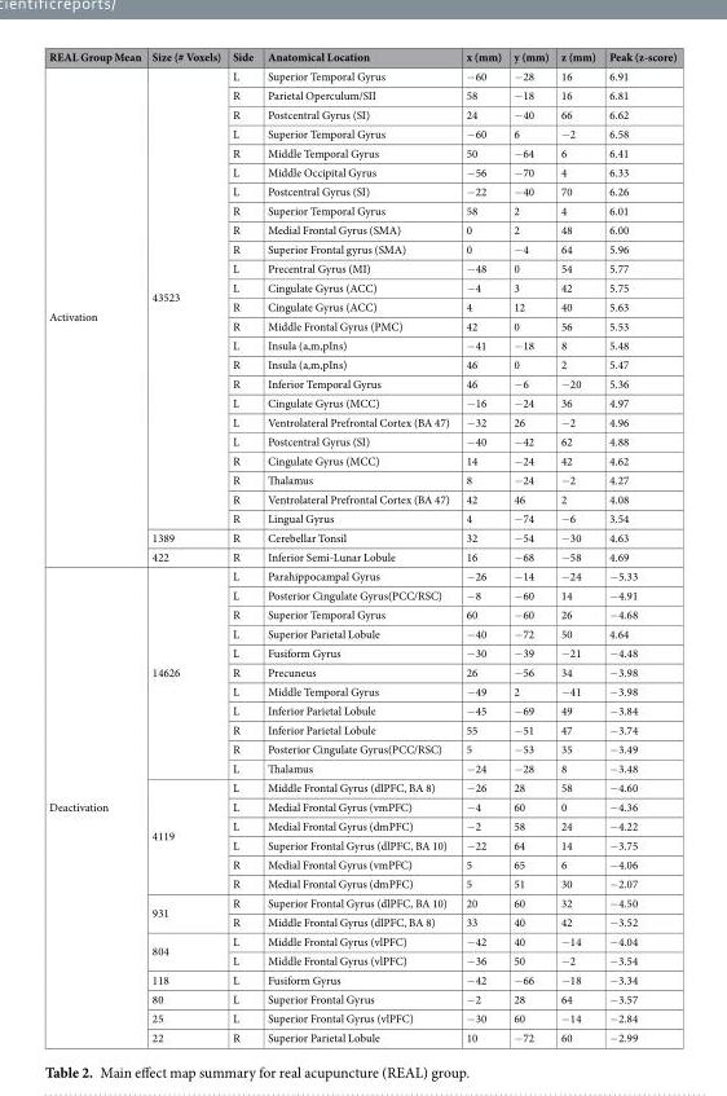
<table><thead><tr><td>REAL Group Mean</td><td>Size (# Voxels)</td><td>Side</td><td>Anatomical Location</td><td>x (mm)</td><td>y (mm)</td><td>z (mm)</td><td>Peak (z-score)</td></tr></thead><tbody><tr><td rowspan="26">Activation</td><td rowspan="24">43523</td><td>L</td><td>Superior Temporal Gyrus</td><td>−60</td><td>−28</td><td>16</td><td>6.91</td></tr><tr><td>R</td><td>Parietal Operculum/SII</td><td>58</td><td>−18</td><td>16</td><td>6.81</td></tr><tr><td>R</td><td>Postcentral Gyrus (SI)</td><td>24</td><td>−40</td><td>66</td><td>6.62</td></tr><tr><td>L</td><td>Superior Temporal Gyrus</td><td>−60</td><td>6</td><td>−2</td><td>6.58</td></tr><tr><td>R</td><td>Middle Temporal Gyrus</td><td>50</td><td>−64</td><td>6</td><td>6.41</td></tr><tr><td>L</td><td>Middle Occipital Gyrus</td><td>−56</td><td>−70</td><td>4</td><td>6.33</td></tr><tr><td>L</td><td>Postcentral Gyrus (SI)</td><td>−22</td><td>−40</td><td>70</td><td>6.26</td></tr><tr><td>R</td><td>Superior Temporal Gyrus</td><td>58</td><td>2</td><td>4</td><td>6.01</td></tr><tr><td>R</td><td>Medial Frontal Gyrus (SMA)</td><td>0</td><td>2</td><td>48</td><td>6.00</td></tr><tr><td>R</td><td>Superior Frontal gyrus (SMA)</td><td>0</td><td>−4</td><td>64</td><td>5.96</td></tr><tr><td>L</td><td>Precentral Gyrus (MI)</td><td>−48</td><td>0</td><td>54</td><td>5.77</td></tr><tr><td>L</td><td>Cingulate Gyrus (ACC)</td><td>−4</td><td>3</td><td>42</td><td>5.75</td></tr><tr><td>R</td><td>Cingulate Gyrus (ACC)</td><td>4</td><td>12</td><td>40</td><td>5.63</td></tr><tr><td>R</td><td>Middle Frontal Gyrus (PMC)</td><td>42</td><td>0</td><td>56</td><td>5.53</td></tr><tr><td>L</td><td>Insula (a,m,pIns)</td><td>−41</td><td>−18</td><td>8</td><td>5.48</td></tr><tr><td>R</td><td>Insula (a,m,pIns)</td><td>46</td><td>0</td><td>2</td><td>5.47</td></tr><tr><td>R</td><td>Inferior Temporal Gyrus</td><td>46</td><td>−6</td><td>−20</td><td>5.36</td></tr><tr><td>L</td><td>Cingulate Gyrus (MCC)</td><td>−16</td><td>−24</td><td>36</td><td>4.97</td></tr><tr><td>L</td><td>Ventrolateral Prefrontal Cortex (BA 47)</td><td>−32</td><td>26</td><td>−2</td><td>4.96</td></tr><tr><td>L</td><td>Postcentral Gyrus (SI)</td><td>−40</td><td>−42</td><td>62</td><td>4.88</td></tr><tr><td>R</td><td>Cingulate Gyrus (MCC)</td><td>14</td><td>−24</td><td>42</td><td>4.62</td></tr><tr><td>R</td><td>Thalamus</td><td>8</td><td>−24</td><td>−2</td><td>4.27</td></tr><tr><td>R</td><td>Ventrolateral Prefrontal Cortex (BA 47)</td><td>42</td><td>46</td><td>2</td><td>4.08</td></tr><tr><td>R</td><td>Lingual Gyrus</td><td>4</td><td>−74</td><td>−6</td><td>3.54</td></tr><tr><td>1389</td><td>R</td><td>Cerebellar Tonsil</td><td>32</td><td>−54</td><td>−30</td><td>4.63</td></tr><tr><td>422</td><td>R</td><td>Inferior Semi-Lunar Lobule</td><td>16</td><td>−68</td><td>−58</td><td>4.69</td></tr><tr><td rowspan="25">Deactivation</td><td rowspan="11">14626</td><td>L</td><td>Parahippocampal Gyrus</td><td>−26</td><td>−14</td><td>−24</td><td>−5.33</td></tr><tr><td>L</td><td>Posterior Cingulate Gyrus(PCC/RSC)</td><td>−8</td><td>−60</td><td>14</td><td>−4.91</td></tr><tr><td>R</td><td>Superior Temporal Gyrus</td><td>60</td><td>−60</td><td>26</td><td>−4.68</td></tr><tr><td>L</td><td>Superior Parietal Lobule</td><td>−40</td><td>−72</td><td>50</td><td>4.64</td></tr><tr><td>L</td><td>Fusiform Gyrus</td><td>−30</td><td>−39</td><td>−21</td><td>−4.48</td></tr><tr><td>R</td><td>Precuneus</td><td>26</td><td>−56</td><td>34</td><td>−3.98</td></tr><tr><td>L</td><td>Middle Temporal Gyrus</td><td>−49</td><td>2</td><td>−41</td><td>−3.98</td></tr><tr><td>L</td><td>Inferior Parietal Lobule</td><td>−45</td><td>−69</td><td>49</td><td>−3.84</td></tr><tr><td>R</td><td>Inferior Parietal Lobule</td><td>55</td><td>−51</td><td>47</td><td>−3.74</td></tr><tr><td>R</td><td>Posterior Cingulate Gyrus(PCC/RSC)</td><td>5</td><td>−53</td><td>35</td><td>−3.49</td></tr><tr><td>L</td><td>Thalamus</td><td>−24</td><td>−28</td><td>8</td><td>−3.48</td></tr><tr><td rowspan="6">4119</td><td>L</td><td>Middle Frontal Gyrus (dlPFC, BA 8)</td><td>−26</td><td>28</td><td>58</td><td>−4.60</td></tr><tr><td>L</td><td>Medial Frontal Gyrus (vmPFC)</td><td>−4</td><td>60</td><td>0</td><td>−4.36</td></tr><tr><td>L</td><td>Medial Frontal Gyrus (dmPFC)</td><td>−2</td><td>58</td><td>24</td><td>−4.22</td></tr><tr><td>L</td><td>Superior Frontal Gyrus (dlPFC, BA 10)</td><td>−22</td><td>64</td><td>14</td><td>−3.75</td></tr><tr><td>R</td><td>Medial Frontal Gyrus (vmPFC)</td><td>5</td><td>65</td><td>6</td><td>−4.06</td></tr><tr><td>R</td><td>Medial Frontal Gyrus (dmPFC)</td><td>5</td><td>51</td><td>30</td><td>−2.07</td></tr><tr><td rowspan="2">931</td><td>R</td><td>Superior Frontal Gyrus (dlPFC, BA 10)</td><td>20</td><td>60</td><td>32</td><td>−4.50</td></tr><tr><td>R</td><td>Middle Frontal Gyrus (dlPFC, BA 8)</td><td>33</td><td>40</td><td>42</td><td>−3.52</td></tr><tr><td rowspan="2">804</td><td>L</td><td>Middle Frontal Gyrus (vlPFC)</td><td>−42</td><td>40</td><td>−14</td><td>−4.04</td></tr><tr><td>L</td><td>Middle Frontal Gyrus (vlPFC)</td><td>−36</td><td>50</td><td>−2</td><td>−3.54</td></tr><tr><td>118</td><td>L</td><td>Fusiform Gyrus</td><td>−42</td><td>−66</td><td>−18</td><td>−3.34</td></tr><tr><td>80</td><td>L</td><td>Superior Frontal Gyrus</td><td>−2</td><td>28</td><td>64</td><td>−3.57</td></tr><tr><td>25</td><td>L</td><td>Superior Frontal Gyrus (vlPFC)</td><td>−30</td><td>60</td><td>−14</td><td>−2.84</td></tr><tr><td>22</td><td>R</td><td>Superior Parietal Lobule</td><td>10</td><td>−72</td><td>60</td><td>−2.99</td></tr></tbody></table>